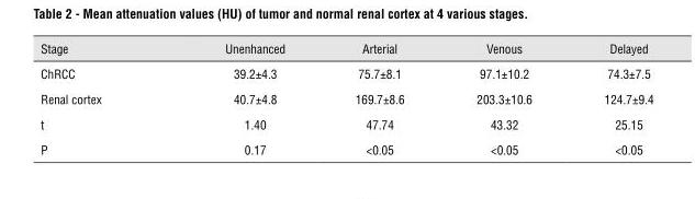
<table><thead><tr><td>Stage</td><td>Unenhanced</td><td>Arterial</td><td>Venous</td><td>Delayed</td></tr></thead><tbody><tr><td>ChRCC</td><td>39.2±4.3</td><td>75.7±8.1</td><td>97.1±10.2</td><td>74.3±7.5</td></tr><tr><td>Renal cortex</td><td>40.7±4.8</td><td>169.7±8.6</td><td>203.3±10.6</td><td>124.7±9.4</td></tr><tr><td>t</td><td>1.40</td><td>47.74</td><td>43.32</td><td>25.15</td></tr><tr><td>P</td><td>0.17</td><td>&lt;0.05</td><td>&lt;0.05</td><td>&lt;0.05</td></tr></tbody></table>